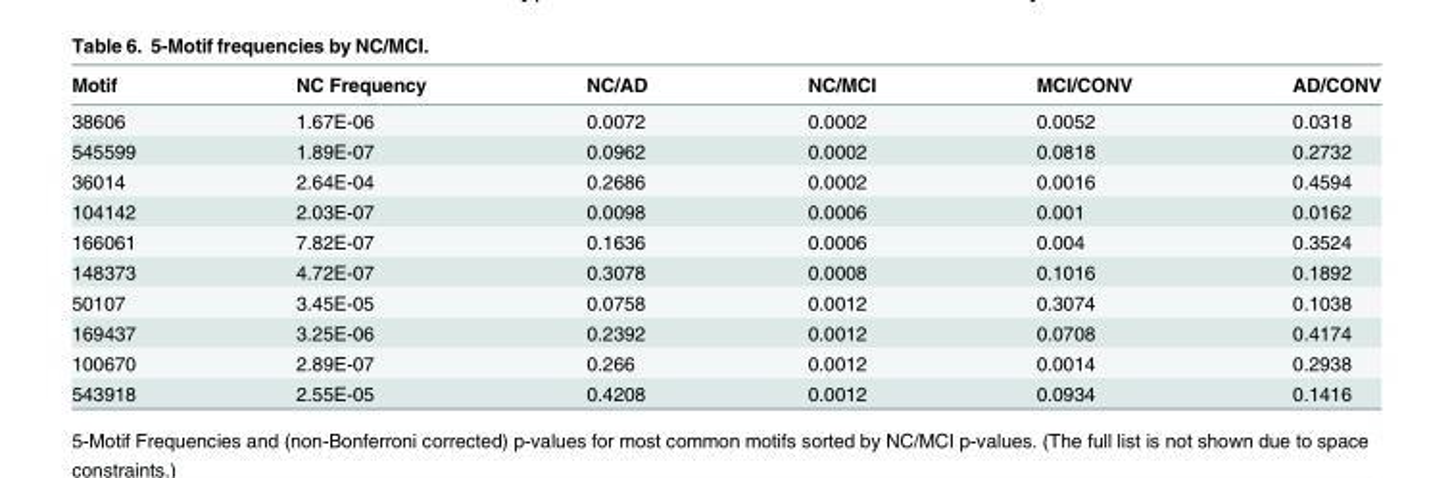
<table><thead><tr><td>Motif</td><td>NC Frequency</td><td>NC/AD</td><td>NC/MCI</td><td>MCI/CONV</td><td>AD/CONV</td></tr></thead><tbody><tr><td>38606</td><td>1.67E-06</td><td>0.0072</td><td>0.0002</td><td>0.0052</td><td>0.0318</td></tr><tr><td>545599</td><td>1.89E-07</td><td>0.0962</td><td>0.0002</td><td>0.0818</td><td>0.2732</td></tr><tr><td>36014</td><td>2.64E-04</td><td>0.2686</td><td>0.0002</td><td>0.0016</td><td>0.4594</td></tr><tr><td>104142</td><td>2.03E-07</td><td>0.0098</td><td>0.0006</td><td>0.001</td><td>0.0162</td></tr><tr><td>166061</td><td>7.82E-07</td><td>0.1636</td><td>0.0006</td><td>0.004</td><td>0.3524</td></tr><tr><td>148373</td><td>4.72E-07</td><td>0.3078</td><td>0.0008</td><td>0.1016</td><td>0.1892</td></tr><tr><td>50107</td><td>3.45E-05</td><td>0.0758</td><td>0.0012</td><td>0.3074</td><td>0.1038</td></tr><tr><td>169437</td><td>3.25E-06</td><td>0.2392</td><td>0.0012</td><td>0.0708</td><td>0.4174</td></tr><tr><td>100670</td><td>2.89E-07</td><td>0.266</td><td>0.0012</td><td>0.0014</td><td>0.2938</td></tr><tr><td>543918</td><td>2.55E-05</td><td>0.4208</td><td>0.0012</td><td>0.0934</td><td>0.1416</td></tr></tbody></table>